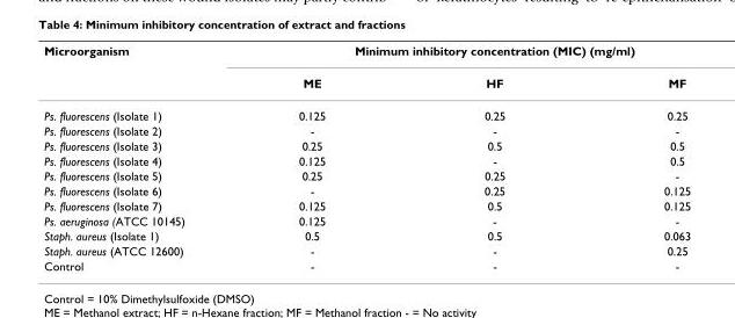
<table><thead><tr><td rowspan="2">Microorganism</td><td colspan="3">Minimum inhibitory concentration (MIC) (mg/ml)</td></tr><tr><td>ME</td><td>HF</td><td>MF</td></tr></thead><tbody><tr><td>Ps. fluorescens (Isolate 1)</td><td>0.125</td><td>0.25</td><td>0.25</td></tr><tr><td>Ps. fluorescens (Isolate 2)</td><td>-</td><td>-</td><td>-</td></tr><tr><td>Ps. fluorescens (Isolate 3)</td><td>0.25</td><td>0.5</td><td>0.5</td></tr><tr><td>Ps. fluorescens (Isolate 4)</td><td>0.125</td><td>-</td><td>0.5</td></tr><tr><td>Ps. fluorescens (Isolate 5)</td><td>0.25</td><td>0.25</td><td>-</td></tr><tr><td>Ps. fluorescens (Isolate 6)</td><td>-</td><td>0.25</td><td>0.125</td></tr><tr><td>Ps. fluorescens (Isolate 7)</td><td>0.125</td><td>0.5</td><td>0.125</td></tr><tr><td>Ps. aeruginosa (ATCC 10145)</td><td>0.125</td><td>-</td><td>-</td></tr><tr><td>Staph. aureus (Isolate 1)</td><td>0.5</td><td>0.5</td><td>0.063</td></tr><tr><td>Staph. aureus (ATCC 12600)</td><td>-</td><td>-</td><td>0.25</td></tr><tr><td>Control</td><td>-</td><td>-</td><td>-</td></tr></tbody></table>